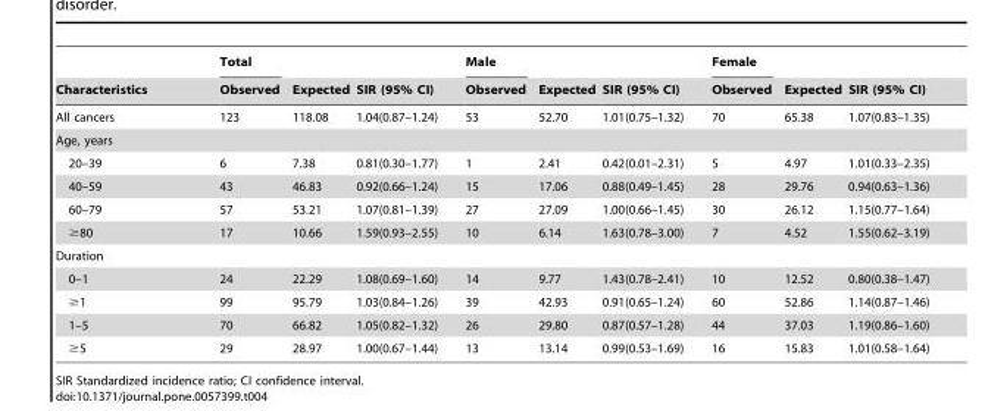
<table><thead><tr><td rowspan="2">Characteristics</td><td rowspan="2">Total Observed</td><td rowspan="2">Expected</td><td rowspan="2">SIR (95% CI)</td><td rowspan="2">Male Observed</td><td rowspan="2">Expected</td><td rowspan="2">SIR (95% CI)</td><td rowspan="2">Female Observed</td><td rowspan="2">Expected</td><td rowspan="2">SIR (95% CI)</td></tr><tr></tr></thead><tbody><tr><td>All cancers</td><td>123</td><td>118.08</td><td>1.04(0.87–1.24)</td><td>53</td><td>52.70</td><td>1.01(0.75–1.32)</td><td>70</td><td>65.38</td><td>1.07(0.83–1.35)</td></tr><tr><td colspan="10">Age, years</td></tr><tr><td>20–39</td><td>6</td><td>7.38</td><td>0.81(0.30–1.77)</td><td>1</td><td>2.41</td><td>0.42(0.01–2.31)</td><td>5</td><td>4.97</td><td>1.01(0.33–2.35)</td></tr><tr><td>40–59</td><td>43</td><td>46.83</td><td>0.92(0.66–1.24)</td><td>15</td><td>17.06</td><td>0.88(0.49–1.45)</td><td>28</td><td>29.76</td><td>0.94(0.63–1.36)</td></tr><tr><td>60–79</td><td>57</td><td>53.21</td><td>1.07(0.81–1.39)</td><td>27</td><td>27.09</td><td>1.00(0.66–1.45)</td><td>30</td><td>26.12</td><td>1.15(0.77–1.64)</td></tr><tr><td>≥80</td><td>17</td><td>10.66</td><td>1.59(0.93–2.55)</td><td>10</td><td>6.14</td><td>1.63(0.78–3.00)</td><td>7</td><td>4.52</td><td>1.55(0.62–3.19)</td></tr><tr><td colspan="10">Duration</td></tr><tr><td>0–1</td><td>24</td><td>22.29</td><td>1.08(0.69–1.60)</td><td>14</td><td>9.77</td><td>1.43(0.78–2.41)</td><td>10</td><td>12.52</td><td>0.80(0.38–1.47)</td></tr><tr><td>≥1</td><td>99</td><td>95.79</td><td>1.03(0.84–1.26)</td><td>39</td><td>42.93</td><td>0.91(0.65–1.24)</td><td>60</td><td>52.86</td><td>1.14(0.87–1.46)</td></tr><tr><td>1–5</td><td>70</td><td>66.82</td><td>1.05(0.82–1.32)</td><td>26</td><td>29.80</td><td>0.87(0.57–1.28)</td><td>44</td><td>37.03</td><td>1.19(0.86–1.60)</td></tr><tr><td>≥5</td><td>29</td><td>28.97</td><td>1.00(0.67–1.44)</td><td>13</td><td>13.14</td><td>0.99(0.53–1.69)</td><td>16</td><td>15.83</td><td>1.01(0.58–1.64)</td></tr></tbody></table>